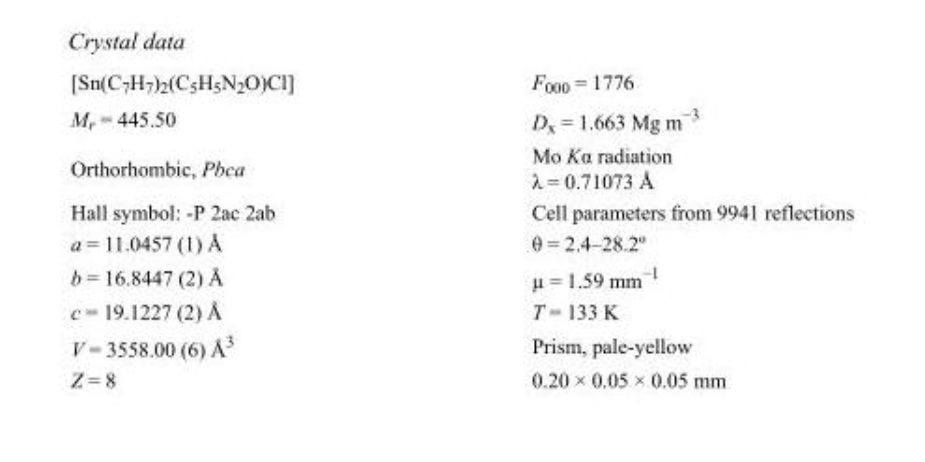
<table><tbody><tr><td>[Sn(C<sub>7</sub>H<sub>7</sub>)<sub>2</sub>(C<sub>5</sub>H<sub>5</sub>N<sub>2</sub>O)Cl]</td><td>F000 = 1776</td></tr><tr><td>M<sub>r</sub> = 445.50</td><td>D<sub>x</sub> = 1.663 Mg m<sup>−3</sup></td></tr><tr><td>Orthorhombic, Pbca</td><td>Mo Kα radiation λ = 0.71073 Å</td></tr><tr><td>Hall symbol: -P 2ac 2ab</td><td>Cell parameters from 9941 reflections</td></tr><tr><td>a = 11.0457 (1) Å</td><td>θ = 2.4–28.2º</td></tr><tr><td>b = 16.8447 (2) Å</td><td>µ = 1.59 mm<sup>−1</sup></td></tr><tr><td>c = 19.1227 (2) Å</td><td>T = 133 K</td></tr><tr><td>V = 3558.00 (6) Å<sup>3</sup></td><td>Prism, pale-yellow</td></tr><tr><td>Z = 8</td><td>0.20 × 0.05 × 0.05 mm</td></tr></tbody></table>